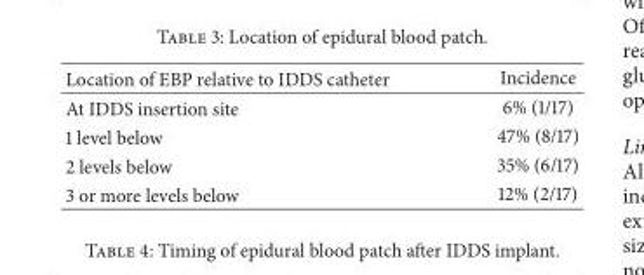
<table><thead><tr><td>Location of EBP relative to IDDS catheter</td><td>Incidence</td></tr></thead><tbody><tr><td>At IDDS insertion site</td><td>6% (1/17)</td></tr><tr><td>1 level below</td><td>47% (8/17)</td></tr><tr><td>2 levels below</td><td>35% (6/17)</td></tr><tr><td>3 or more levels below</td><td>12% (2/17)</td></tr></tbody></table>